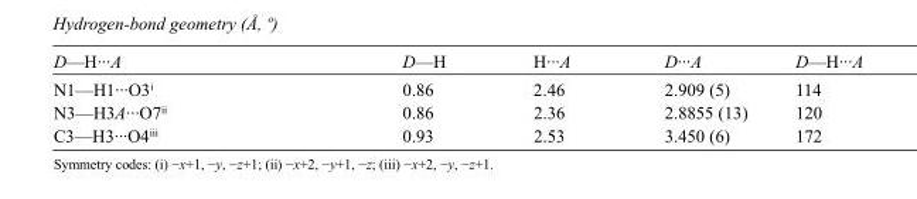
<table><tbody><tr><td>D—H···A</td><td>D—H</td><td>H···A</td><td>D···A</td><td>D—H···A</td></tr><tr><td>N1—H1···O3<sup>i</sup></td><td>0.86</td><td>2.46</td><td>2.909 (5)</td><td>114</td></tr><tr><td>N3—H3A···O7<sup>ii</sup></td><td>0.86</td><td>2.36</td><td>2.8855 (13)</td><td>120</td></tr><tr><td>C3—H3···O4<sup>iii</sup></td><td>0.93</td><td>2.53</td><td>3.450 (6)</td><td>172</td></tr></tbody></table>